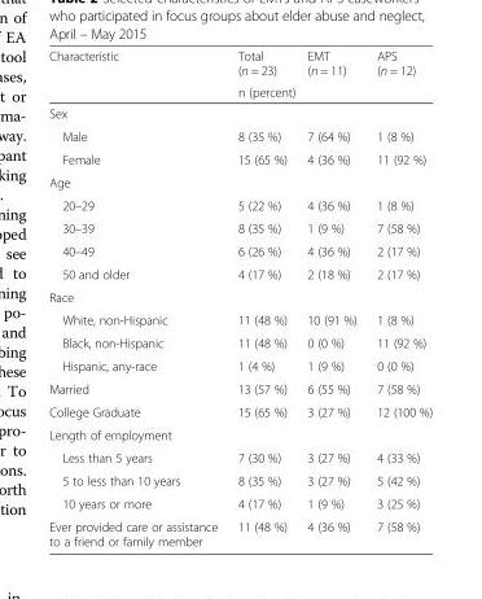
<table><thead><tr><td rowspan="2">Characteristic</td><td>Total (n = 23)</td><td>EMT (n = 11)</td><td>APS (n = 12)</td></tr><tr><td colspan="3">n (percent)</td></tr></thead><tbody><tr><td colspan="4">Sex</td></tr><tr><td>Male</td><td>8 (35 %)</td><td>7 (64 %)</td><td>1 (8 %)</td></tr><tr><td>Female</td><td>15 (65 %)</td><td>4 (36 %)</td><td>11 (92 %)</td></tr><tr><td colspan="4">Age</td></tr><tr><td>20–29</td><td>5 (22 %)</td><td>4 (36 %)</td><td>1 (8 %)</td></tr><tr><td>30–39</td><td>8 (35 %)</td><td>1 (9 %)</td><td>7 (58 %)</td></tr><tr><td>40–49</td><td>6 (26 %)</td><td>4 (36 %)</td><td>2 (17 %)</td></tr><tr><td>50 and older</td><td>4 (17 %)</td><td>2 (18 %)</td><td>2 (17 %)</td></tr><tr><td colspan="4">Race</td></tr><tr><td>White, non-Hispanic</td><td>11 (48 %)</td><td>10 (91 %)</td><td>1 (8 %)</td></tr><tr><td>Black, non-Hispanic</td><td>11 (48 %)</td><td>0 (0 %)</td><td>11 (92 %)</td></tr><tr><td>Hispanic, any-race</td><td>1 (4 %)</td><td>1 (9 %)</td><td>0 (0 %)</td></tr><tr><td>Married</td><td>13 (57 %)</td><td>6 (55 %)</td><td>7 (58 %)</td></tr><tr><td>College Graduate</td><td>15 (65 %)</td><td>3 (27 %)</td><td>12 (100 %)</td></tr><tr><td colspan="4">Length of employment</td></tr><tr><td>Less than 5 years</td><td>7 (30 %)</td><td>3 (27 %)</td><td>4 (33 %)</td></tr><tr><td>5 to less than 10 years</td><td>8 (35 %)</td><td>3 (27 %)</td><td>5 (42 %)</td></tr><tr><td>10 years or more</td><td>4 (17 %)</td><td>1 (9 %)</td><td>3 (25 %)</td></tr><tr><td>Ever provided care or assistance to a friend or family member</td><td>11 (48 %)</td><td>4 (36 %)</td><td>7 (58 %)</td></tr></tbody></table>